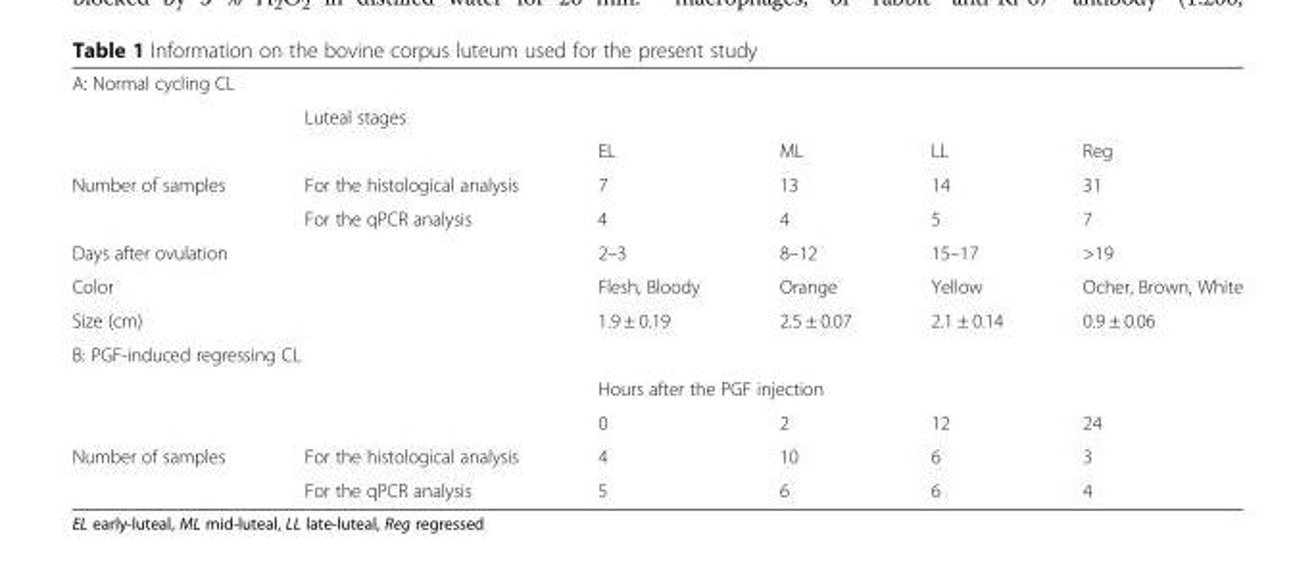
<table><tbody><tr><td colspan="6">A: Normal cycling CL</td></tr><tr><td></td><td colspan="5">Luteal stages</td></tr><tr><td></td><td></td><td>EL</td><td>ML</td><td>LL</td><td>Reg</td></tr><tr><td rowspan="2">Number of samples</td><td>For the histological analysis</td><td>7</td><td>13</td><td>14</td><td>31</td></tr><tr><td>For the qPCR analysis</td><td>4</td><td>4</td><td>5</td><td>7</td></tr><tr><td colspan="2">Days after ovulation</td><td>2–3</td><td>8–12</td><td>15–17</td><td>&gt;19</td></tr><tr><td colspan="2">Color</td><td>Flesh, Bloody</td><td>Orange</td><td>Yellow</td><td>Ocher, Brown, White</td></tr><tr><td colspan="2">Size (cm)</td><td>1.9 ± 0.19</td><td>2.5 ± 0.07</td><td>2.1 ± 0.14</td><td>0.9 ± 0.06</td></tr><tr><td colspan="6">B: PGF-induced regressing CL</td></tr><tr><td></td><td></td><td colspan="4">Hours after the PGF injection</td></tr><tr><td></td><td></td><td>0</td><td>2</td><td>12</td><td>24</td></tr><tr><td rowspan="2">Number of samples</td><td>For the histological analysis</td><td>4</td><td>10</td><td>6</td><td>3</td></tr><tr><td>For the qPCR analysis</td><td>5</td><td>6</td><td>6</td><td>4</td></tr></tbody></table>